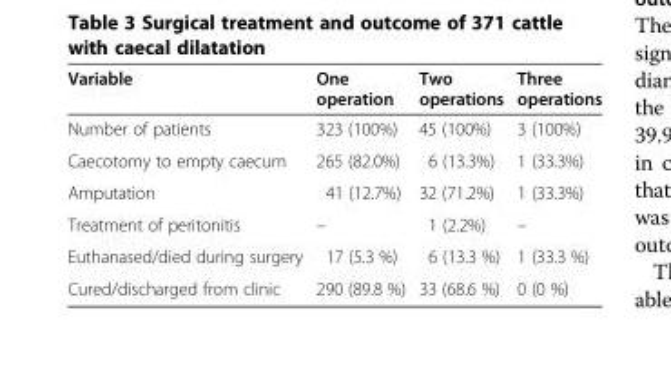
<table><thead><tr><td>Variable</td><td>One operation</td><td>Two operations</td><td>Three operations</td></tr></thead><tbody><tr><td>Number of patients</td><td>323 (100%)</td><td>45 (100%)</td><td>3 (100%)</td></tr><tr><td>Caecotomy to empty caecum</td><td>265 (82.0%)</td><td>6 (13.3%)</td><td>1 (33.3%)</td></tr><tr><td>Amputation</td><td>41 (12.7%)</td><td>32 (71.2%)</td><td>1 (33.3%)</td></tr><tr><td>Treatment of peritonitis</td><td>–</td><td>1 (2.2%)</td><td>–</td></tr><tr><td>Euthanased/died during surgery</td><td>17 (5.3 %)</td><td>6 (13.3 %)</td><td>1 (33.3 %)</td></tr><tr><td>Cured/discharged from clinic</td><td>290 (89.8 %)</td><td>33 (68.6 %)</td><td>0 (0 %)</td></tr></tbody></table>